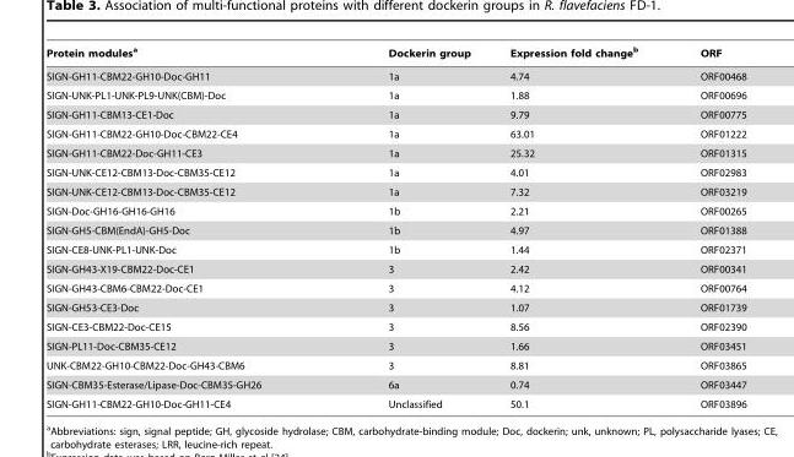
<table><thead><tr><td>Protein modules<sup>a</sup></td><td>Dockerin group</td><td>Expression fold change<sup>b</sup></td><td>ORF</td></tr></thead><tbody><tr><td>SIGN-GH11-CBM22-GH10-Doc-GH11</td><td>1a</td><td>4.74</td><td>ORF00468</td></tr><tr><td>SIGN-UNK-PL1-UNK-PL9-UNK(CBM)-Doc</td><td>1a</td><td>1.88</td><td>ORF00696</td></tr><tr><td>SIGN-GH11-CBM13-CE1-Doc</td><td>1a</td><td>9.79</td><td>ORF00775</td></tr><tr><td>SIGN-GH11-CBM22-GH10-Doc-CBM22-CE4</td><td>1a</td><td>63.01</td><td>ORF01222</td></tr><tr><td>SIGN-GH11-CBM22-Doc-GH11-CE3</td><td>1a</td><td>25.32</td><td>ORF01315</td></tr><tr><td>SIGN-UNK-CE12-CBM13-Doc-CBM35-CE12</td><td>1a</td><td>4.01</td><td>ORF02983</td></tr><tr><td>SIGN-UNK-CE12-CBM13-Doc-CBM35-CE12</td><td>1a</td><td>7.32</td><td>ORF03219</td></tr><tr><td>SIGN-Doc-GH16-GH16-GH16</td><td>1b</td><td>2.21</td><td>ORF00265</td></tr><tr><td>SIGN-GH5-CBM(EndA)-GH5-Doc</td><td>1b</td><td>4.97</td><td>ORF01388</td></tr><tr><td>SIGN-CE8-UNK-PL1-UNK-Doc</td><td>1b</td><td>1.44</td><td>ORF02371</td></tr><tr><td>SIGN-GH43-X19-CBM22-Doc-CE1</td><td>3</td><td>2.42</td><td>ORF00341</td></tr><tr><td>SIGN-GH43-CBM6-CBM22-Doc-CE1</td><td>3</td><td>4.12</td><td>ORF00764</td></tr><tr><td>SIGN-GH53-CE3-Doc</td><td>3</td><td>1.07</td><td>ORF01739</td></tr><tr><td>SIGN-CE3-CBM22-Doc-CE15</td><td>3</td><td>8.56</td><td>ORF02390</td></tr><tr><td>SIGN-PL11-Doc-CBM35-CE12</td><td>3</td><td>1.66</td><td>ORF03451</td></tr><tr><td>UNK-CBM22-GH10-CBM22-Doc-GH43-CBM6</td><td>3</td><td>8.81</td><td>ORF03865</td></tr><tr><td>SIGN-CBM35-Esterase/Lipase-Doc-CBM35-GH26</td><td>6a</td><td>0.74</td><td>ORF03447</td></tr><tr><td>SIGN-GH11-CBM22-GH10-Doc-GH11-CE4</td><td>Unclassified</td><td>50.1</td><td>ORF03896</td></tr></tbody></table>